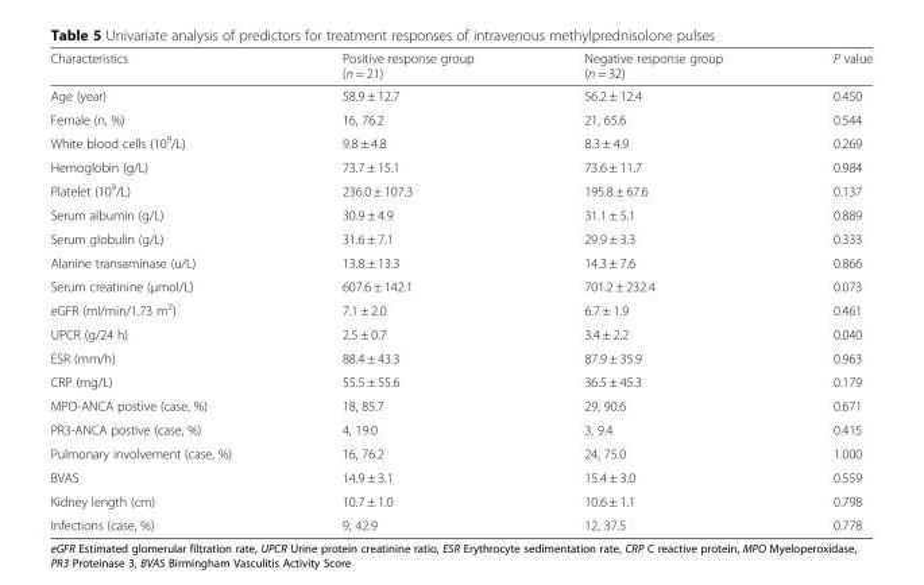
<table><thead><tr><td>Characteristics</td><td>Positive response group (n = 21)</td><td>Negative response group (n = 32)</td><td>P value</td></tr></thead><tbody><tr><td>Age (year)</td><td>58.9 ± 12.7</td><td>56.2 ± 12.4</td><td>0.450</td></tr><tr><td>Female (n, %)</td><td>16, 76.2</td><td>21, 65.6</td><td>0.544</td></tr><tr><td>White blood cells (10<sup>9</sup>/L)</td><td>9.8 ± 4.8</td><td>8.3 ± 4.9</td><td>0.269</td></tr><tr><td>Hemoglobin (g/L)</td><td>73.7 ± 15.1</td><td>73.6 ± 11.7</td><td>0.984</td></tr><tr><td>Platelet (10<sup>9</sup>/L)</td><td>236.0 ± 107.3</td><td>195.8 ± 67.6</td><td>0.137</td></tr><tr><td>Serum albumin (g/L)</td><td>30.9 ± 4.9</td><td>31.1 ± 5.1</td><td>0.889</td></tr><tr><td>Serum globulin (g/L)</td><td>31.6 ± 7.1</td><td>29.9 ± 3.3</td><td>0.333</td></tr><tr><td>Alanine transaminase (u/L)</td><td>13.8 ± 13.3</td><td>14.3 ± 7.6</td><td>0.866</td></tr><tr><td>Serum creatinine (μmol/L)</td><td>607.6 ± 142.1</td><td>701.2 ± 232.4</td><td>0.073</td></tr><tr><td>eGFR (ml/min/1.73 m<sup>2</sup>)</td><td>7.1 ± 2.0</td><td>6.7 ± 1.9</td><td>0.461</td></tr><tr><td>UPCR (g/24 h)</td><td>2.5 ± 0.7</td><td>3.4 ± 2.2</td><td>0.040</td></tr><tr><td>ESR (mm/h)</td><td>88.4 ± 43.3</td><td>87.9 ± 35.9</td><td>0.963</td></tr><tr><td>CRP (mg/L)</td><td>55.5 ± 55.6</td><td>36.5 ± 45.3</td><td>0.179</td></tr><tr><td>MPO-ANCA postive (case, %)</td><td>18, 85.7</td><td>29, 90.6</td><td>0.671</td></tr><tr><td>PR3-ANCA postive (case, %)</td><td>4, 19.0</td><td>3, 9.4</td><td>0.415</td></tr><tr><td>Pulmonary involvement (case, %)</td><td>16, 76.2</td><td>24, 75.0</td><td>1.000</td></tr><tr><td>BVAS</td><td>14.9 ± 3.1</td><td>15.4 ± 3.0</td><td>0.559</td></tr><tr><td>Kidney length (cm)</td><td>10.7 ± 1.0</td><td>10.6 ± 1.1</td><td>0.798</td></tr><tr><td>Infections (case, %)</td><td>9, 42.9</td><td>12, 37.5</td><td>0.778</td></tr></tbody></table>